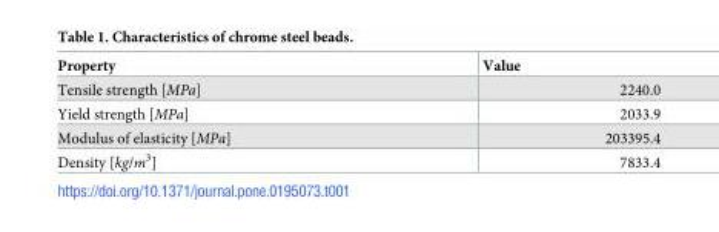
<table><thead><tr><td>Property</td><td>Value</td></tr></thead><tbody><tr><td>Tensile strength [MPa]</td><td>2240.0</td></tr><tr><td>Yield strength [MPa]</td><td>2033.9</td></tr><tr><td>Modulus of elasticity [MPa]</td><td>203395.4</td></tr><tr><td>Density [kg/m<sup>3</sup>]</td><td>7833.4</td></tr></tbody></table>